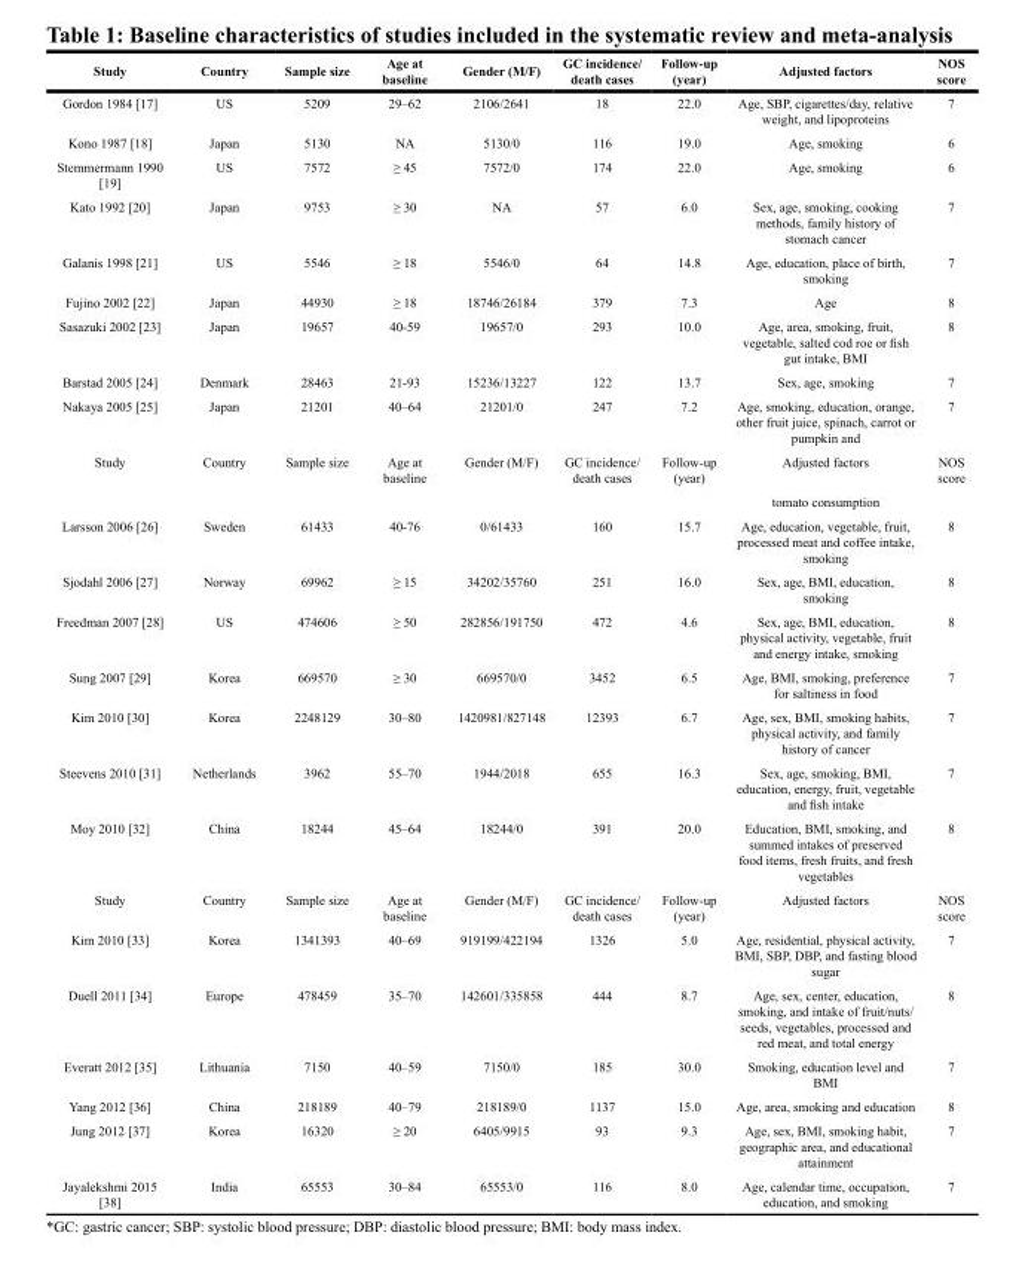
<table><thead><tr><td>Study</td><td>Country</td><td>Sample size</td><td>Age at baseline</td><td>Gender (M/F)</td><td>GC incidence/ death cases</td><td>Follow-up (year)</td><td>Adjusted factors</td><td>NOS score</td></tr></thead><tbody><tr><td>Gordon 1984 [17]</td><td>US</td><td>5209</td><td>29–62</td><td>2106/2641</td><td>18</td><td>22.0</td><td>Age, SBP, cigarettes/day, relative weight, and lipoproteins</td><td>7</td></tr><tr><td>Kono 1987 [18]</td><td>Japan</td><td>5130</td><td>NA</td><td>5130/0</td><td>116</td><td>19.0</td><td>Age, smoking</td><td>6</td></tr><tr><td>Stemmermann 1990 [19]</td><td>US</td><td>7572</td><td>≥ 45</td><td>7572/0</td><td>174</td><td>22.0</td><td>Age, smoking</td><td>6</td></tr><tr><td>Kato 1992 [20]</td><td>Japan</td><td>9753</td><td>≥ 30</td><td>NA</td><td>57</td><td>6.0</td><td>Sex, age, smoking, cooking methods, family history of stomach cancer</td><td>7</td></tr><tr><td>Galanis 1998 [21]</td><td>US</td><td>5546</td><td>≥ 18</td><td>5546/0</td><td>64</td><td>14.8</td><td>Age, education, place of birth, smoking</td><td>7</td></tr><tr><td>Fujino 2002 [22]</td><td>Japan</td><td>44930</td><td>≥ 18</td><td>18746/26184</td><td>379</td><td>7.3</td><td>Age</td><td>8</td></tr><tr><td>Sasazuki 2002 [23]</td><td>Japan</td><td>19657</td><td>40-59</td><td>19657/0</td><td>293</td><td>10.0</td><td>Age, area, smoking, fruit, vegetable, salted cod roe or fish gut intake, BMI</td><td>8</td></tr><tr><td>Barstad 2005 [24]</td><td>Denmark</td><td>28463</td><td>21-93</td><td>15236/13227</td><td>122</td><td>13.7</td><td>Sex, age, smoking</td><td>7</td></tr><tr><td>Nakaya 2005 [25]</td><td>Japan</td><td>21201</td><td>40–64</td><td>21201/0</td><td>247</td><td>7.2</td><td>Age, smoking, education, orange, other fruit juice, spinach, carrot or pumpkin and</td><td>7</td></tr><tr><td rowspan="2">Study</td><td>Country</td><td>Sample size</td><td>Age at baseline</td><td>Gender (M/F)</td><td>GC incidence/ death cases</td><td>Follow-up (year)</td><td>Adjusted factors</td><td>NOS score</td></tr><tr><td></td><td></td><td></td><td></td><td></td><td></td><td>tomato consumption</td><td></td></tr><tr><td>Larsson 2006 [26]</td><td>Sweden</td><td>61433</td><td>40-76</td><td>0/61433</td><td>160</td><td>15.7</td><td>Age, education, vegetable, fruit, processed meat and coffee intake, smoking</td><td>8</td></tr><tr><td>Sjodahl 2006 [27]</td><td>Norway</td><td>69962</td><td>≥ 15</td><td>34202/35760</td><td>251</td><td>16.0</td><td>Sex, age, BMI, education, smoking</td><td>8</td></tr><tr><td>Freedman 2007 [28]</td><td>US</td><td>474606</td><td>≥ 50</td><td>282856/191750</td><td>472</td><td>4.6</td><td>Sex, age, BMI, education, physical activity, vegetable, fruit and energy intake, smoking</td><td>8</td></tr><tr><td>Sung 2007 [29]</td><td>Korea</td><td>669570</td><td>≥ 30</td><td>669570/0</td><td>3452</td><td>6.5</td><td>Age, BMI, smoking, preference for saltiness in food</td><td>7</td></tr><tr><td>Kim 2010 [30]</td><td>Korea</td><td>2248129</td><td>30–80</td><td>1420981/827148</td><td>12393</td><td>6.7</td><td>Age, sex, BMI, smoking habits, physical activity, and family history of cancer</td><td>7</td></tr><tr><td>Steevens 2010 [31]</td><td>Netherlands</td><td>3962</td><td>55–70</td><td>1944/2018</td><td>655</td><td>16.3</td><td>Sex, age, smoking, BMI, education, energy, fruit, vegetable and fish intake</td><td>7</td></tr><tr><td>Moy 2010 [32]</td><td>China</td><td>18244</td><td>45–64</td><td>18244/0</td><td>391</td><td>20.0</td><td>Education, BMI, smoking, and summed intakes of preserved food items, fresh fruits, and fresh vegetables</td><td>8</td></tr><tr><td>Study</td><td>Country</td><td>Sample size</td><td>Age at baseline</td><td>Gender (M/F)</td><td>GC incidence/ death cases</td><td>Follow-up (year)</td><td>Adjusted factors</td><td>NOS score</td></tr><tr><td>Kim 2010 [33]</td><td>Korea</td><td>1341393</td><td>40–69</td><td>919199/422194</td><td>1326</td><td>5.0</td><td>Age, residential, physical activity, BMI, SBP, DBP, and fasting blood sugar</td><td>7</td></tr><tr><td>Duell 2011 [34]</td><td>Europe</td><td>478459</td><td>35–70</td><td>142601/335858</td><td>444</td><td>8.7</td><td>Age, sex, center, education, smoking, and intake of fruit/nuts/ seeds, vegetables, processed and red meat, and total energy</td><td>8</td></tr><tr><td>Everatt 2012 [35]</td><td>Lithuania</td><td>7150</td><td>40–59</td><td>7150/0</td><td>185</td><td>30.0</td><td>Smoking, education level and BMI</td><td>7</td></tr><tr><td>Yang 2012 [36]</td><td>China</td><td>218189</td><td>40–79</td><td>218189/0</td><td>1137</td><td>15.0</td><td>Age, area, smoking and education</td><td>8</td></tr><tr><td>Jung 2012 [37]</td><td>Korea</td><td>16320</td><td>≥ 20</td><td>6405/9915</td><td>93</td><td>9.3</td><td>Age, sex, BMI, smoking habit, geographic area, and educational attainment</td><td>7</td></tr><tr><td>Jayalekshmi 2015 [38]</td><td>India</td><td>65553</td><td>30–84</td><td>65553/0</td><td>116</td><td>8.0</td><td>Age, calendar time, occupation, education, and smoking</td><td>7</td></tr></tbody></table>